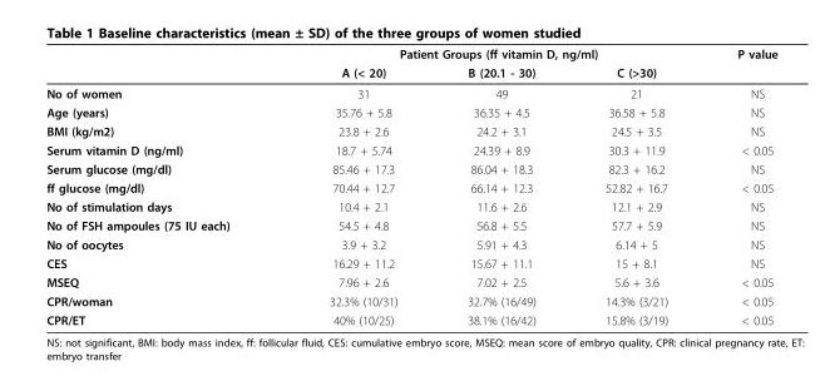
<table><thead><tr><td rowspan="2"></td><td colspan="3">Patient Groups (ff vitamin D, ng/ml)</td><td rowspan="2">P value</td></tr><tr><td>A (&lt; 20)</td><td>B (20.1 - 30)</td><td>C (&gt;30)</td></tr></thead><tbody><tr><td>No of women</td><td>31</td><td>49</td><td>21</td><td>NS</td></tr><tr><td>Age (years)</td><td>35.76 + 5.8</td><td>36.35 + 4.5</td><td>36.58 + 5.8</td><td>NS</td></tr><tr><td>BMI (kg/m2)</td><td>23.8 + 2.6</td><td>24.2 + 3.1</td><td>24.5 + 3.5</td><td>NS</td></tr><tr><td>Serum vitamin D (ng/ml)</td><td>18.7 + 5.74</td><td>24.39 + 8.9</td><td>30.3 + 11.9</td><td>&lt; 0.05</td></tr><tr><td>Serum glucose (mg/dl)</td><td>85.46 + 17.3</td><td>86.04 + 18.3</td><td>82.3 + 16.2</td><td>NS</td></tr><tr><td>ff glucose (mg/dl)</td><td>70.44 + 12.7</td><td>66.14 + 12.3</td><td>52.82 + 16.7</td><td>&lt; 0.05</td></tr><tr><td>No of stimulation days</td><td>10.4 + 2.1</td><td>11.6 + 2.6</td><td>12.1 + 2.9</td><td>NS</td></tr><tr><td>No of FSH ampoules (75 IU each)</td><td>54.5 + 4.8</td><td>56.8 + 5.5</td><td>57.7 + 5.9</td><td>NS</td></tr><tr><td>No of oocytes</td><td>3.9 + 3.2</td><td>5.91 + 4.3</td><td>6.14 + 5</td><td>NS</td></tr><tr><td>CES</td><td>16.29 + 11.2</td><td>15.67 + 11.1</td><td>15 + 8.1</td><td>NS</td></tr><tr><td>MSEQ</td><td>7.96 + 2.6</td><td>7.02 + 2.5</td><td>5.6 + 3.6</td><td>&lt; 0.05</td></tr><tr><td>CPR/woman</td><td>32.3% (10/31)</td><td>32.7% (16/49)</td><td>14.3% (3/21)</td><td>&lt; 0.05</td></tr><tr><td>CPR/ET</td><td>40% (10/25)</td><td>38.1% (16/42)</td><td>15.8% (3/19)</td><td>&lt; 0.05</td></tr></tbody></table>